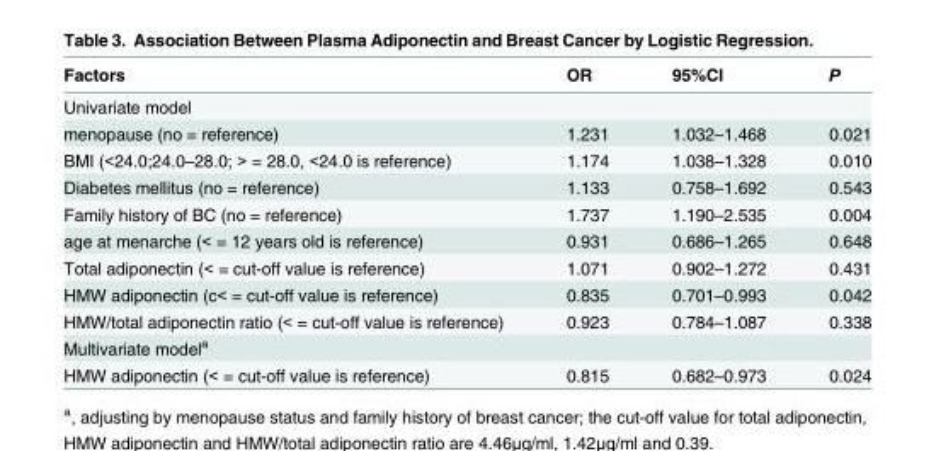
<table><thead><tr><td>Factors</td><td>OR</td><td>95%CI</td><td>P</td></tr></thead><tbody><tr><td colspan="4">Univariate model</td></tr><tr><td>menopause (no = reference)</td><td>1.231</td><td>1.032–1.468</td><td>0.021</td></tr><tr><td>BMI (&lt;24.0;24.0–28.0; &gt; = 28.0, &lt;24.0 is reference)</td><td>1.174</td><td>1.038–1.328</td><td>0.010</td></tr><tr><td>Diabetes mellitus (no = reference)</td><td>1.133</td><td>0.758–1.692</td><td>0.543</td></tr><tr><td>Family history of BC (no = reference)</td><td>1.737</td><td>1.190–2.535</td><td>0.004</td></tr><tr><td>age at menarche (&lt; = 12 years old is reference)</td><td>0.931</td><td>0.686–1.265</td><td>0.648</td></tr><tr><td>Total adiponectin (&lt; = cut-off value is reference)</td><td>1.071</td><td>0.902–1.272</td><td>0.431</td></tr><tr><td>HMW adiponectin (c&lt; = cut-off value is reference)</td><td>0.835</td><td>0.701–0.993</td><td>0.042</td></tr><tr><td>HMW/total adiponectin ratio (&lt; = cut-off value is reference)</td><td>0.923</td><td>0.784–1.087</td><td>0.338</td></tr><tr><td colspan="4">Multivariate model<sup>a</sup></td></tr><tr><td>HMW adiponectin (&lt; = cut-off value is reference)</td><td>0.815</td><td>0.682–0.973</td><td>0.024</td></tr></tbody></table>